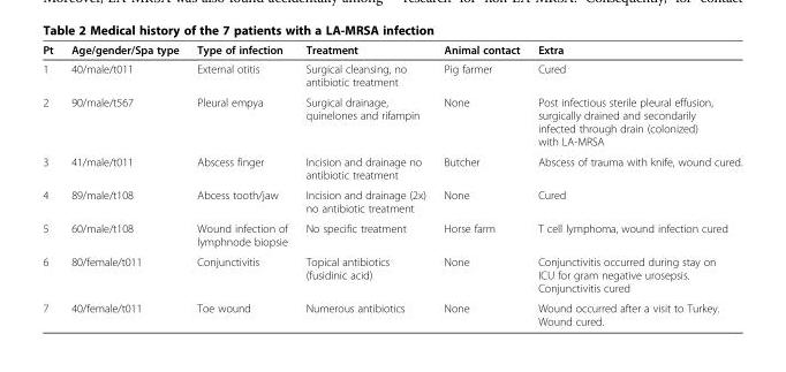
<table><thead><tr><td>Pt</td><td>Age/gender/Spa type</td><td>Type of infection</td><td>Treatment</td><td>Animal contact</td><td>Extra</td></tr></thead><tbody><tr><td>1</td><td>40/male/t011</td><td>External otitis</td><td>Surgical cleansing, no antibiotic treatment</td><td>Pig farmer</td><td>Cured</td></tr><tr><td>2</td><td>90/male/t567</td><td>Pleural empya</td><td>Surgical drainage, quinelones and rifampin</td><td>None</td><td>Post infectious sterile pleural effusion, surgically drained and secondarily infected through drain (colonized) with LA-MRSA</td></tr><tr><td>3</td><td>41/male/t011</td><td>Abscess finger</td><td>Incision and drainage no antibiotic treatment</td><td>Butcher</td><td>Abscess of trauma with knife, wound cured.</td></tr><tr><td>4</td><td>89/male/t108</td><td>Abcess tooth/jaw</td><td>Incision and drainage (2x) no antibiotic treatment</td><td>None</td><td>Cured</td></tr><tr><td>5</td><td>60/male/t108</td><td>Wound infection of lymphnode biopsie</td><td>No specific treatment</td><td>Horse farm</td><td>T cell lymphoma, wound infection cured</td></tr><tr><td>6</td><td>80/female/t011</td><td>Conjunctivitis</td><td>Topical antibiotics (fusidinic acid)</td><td>None</td><td>Conjunctivitis occurred during stay on ICU for gram negative urosepsis. Conjunctivitis cured</td></tr><tr><td>7</td><td>40/female/t011</td><td>Toe wound</td><td>Numerous antibiotics</td><td>None</td><td>Wound occurred after a visit to Turkey. Wound cured.</td></tr></tbody></table>